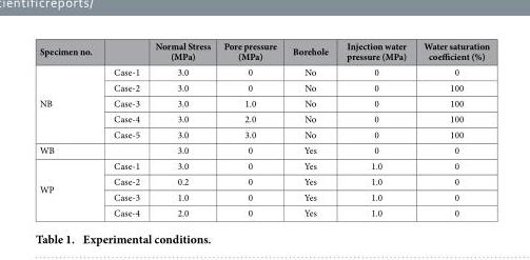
<table><tbody><tr><td>Specimen no.</td><td></td><td>Normal Stress (MPa)</td><td>Pore pressure (MPa)</td><td>Borehole</td><td>Injection water pressure (MPa)</td><td>Water saturation coefficient (%)</td></tr><tr><td rowspan="5">NB</td><td>Case-1</td><td>3.0</td><td>0</td><td>No</td><td>0</td><td>0</td></tr><tr><td>Case-2</td><td>3.0</td><td>0</td><td>No</td><td>0</td><td>100</td></tr><tr><td>Case-3</td><td>3.0</td><td>1.0</td><td>No</td><td>0</td><td>100</td></tr><tr><td>Case-4</td><td>3.0</td><td>2.0</td><td>No</td><td>0</td><td>100</td></tr><tr><td>Case-5</td><td>3.0</td><td>3.0</td><td>No</td><td>0</td><td>100</td></tr><tr><td>WB</td><td></td><td>3.0</td><td>0</td><td>Yes</td><td>0</td><td>0</td></tr><tr><td rowspan="4">WP</td><td>Case-1</td><td>3.0</td><td>0</td><td>Yes</td><td>1.0</td><td>0</td></tr><tr><td>Case-2</td><td>0.2</td><td>0</td><td>Yes</td><td>1.0</td><td>0</td></tr><tr><td>Case-3</td><td>1.0</td><td>0</td><td>Yes</td><td>1.0</td><td>0</td></tr><tr><td>Case-4</td><td>2.0</td><td>0</td><td>Yes</td><td>1.0</td><td>0</td></tr></tbody></table>